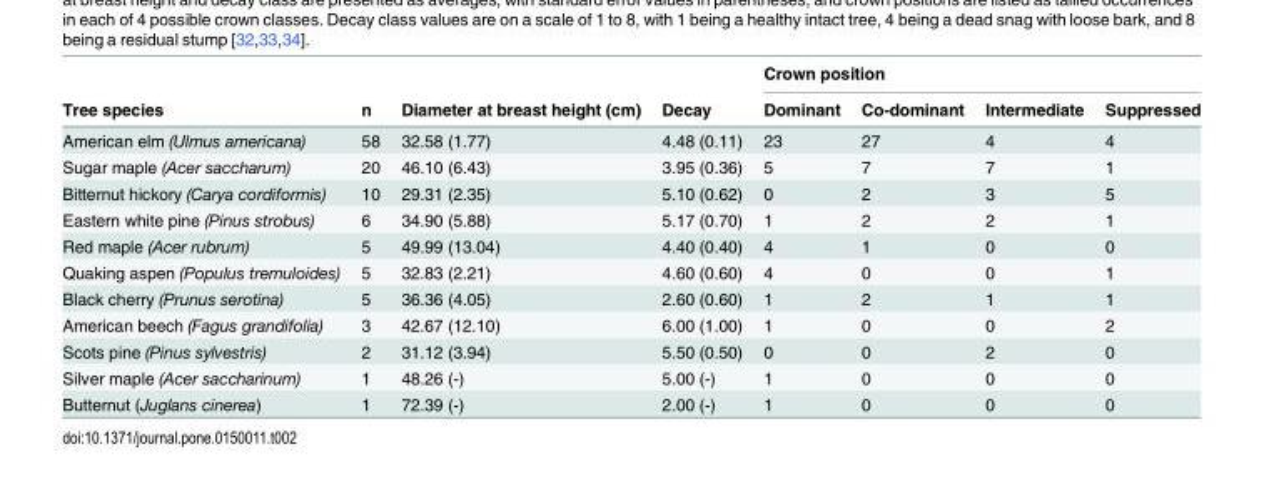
<table><thead><tr><td rowspan="2">Tree species</td><td rowspan="2">n</td><td rowspan="2">Diameter at breast height (cm)</td><td rowspan="2">Decay</td><td colspan="4">Crown position</td></tr><tr><td>Dominant</td><td>Co-dominant</td><td>Intermediate</td><td>Suppressed</td></tr></thead><tbody><tr><td>American elm (Ulmus americana)</td><td>58</td><td>32.58 (1.77)</td><td>4.48 (0.11)</td><td>23</td><td>27</td><td>4</td><td>4</td></tr><tr><td>Sugar maple (Acer saccharum)</td><td>20</td><td>46.10 (6.43)</td><td>3.95 (0.36)</td><td>5</td><td>7</td><td>7</td><td>1</td></tr><tr><td>Bitternut hickory (Carya cordiformis)</td><td>10</td><td>29.31 (2.35)</td><td>5.10 (0.62)</td><td>0</td><td>2</td><td>3</td><td>5</td></tr><tr><td>Eastern white pine (Pinus strobus)</td><td>6</td><td>34.90 (5.88)</td><td>5.17 (0.70)</td><td>1</td><td>2</td><td>2</td><td>1</td></tr><tr><td>Red maple (Acer rubrum)</td><td>5</td><td>49.99 (13.04)</td><td>4.40 (0.40)</td><td>4</td><td>1</td><td>0</td><td>0</td></tr><tr><td>Quaking aspen (Populus tremuloides)</td><td>5</td><td>32.83 (2.21)</td><td>4.60 (0.60)</td><td>4</td><td>0</td><td>0</td><td>1</td></tr><tr><td>Black cherry (Prunus serotina)</td><td>5</td><td>36.36 (4.05)</td><td>2.60 (0.60)</td><td>1</td><td>2</td><td>1</td><td>1</td></tr><tr><td>American beech (Fagus grandifolia)</td><td>3</td><td>42.67 (12.10)</td><td>6.00 (1.00)</td><td>1</td><td>0</td><td>0</td><td>2</td></tr><tr><td>Scots pine (Pinus sylvestris)</td><td>2</td><td>31.12 (3.94)</td><td>5.50 (0.50)</td><td>0</td><td>0</td><td>2</td><td>0</td></tr><tr><td>Silver maple (Acer saccharinum)</td><td>1</td><td>48.26 (-)</td><td>5.00 (-)</td><td>1</td><td>0</td><td>0</td><td>0</td></tr><tr><td>Butternut (Juglans cinerea)</td><td>1</td><td>72.39 (-)</td><td>2.00 (-)</td><td>1</td><td>0</td><td>0</td><td>0</td></tr></tbody></table>